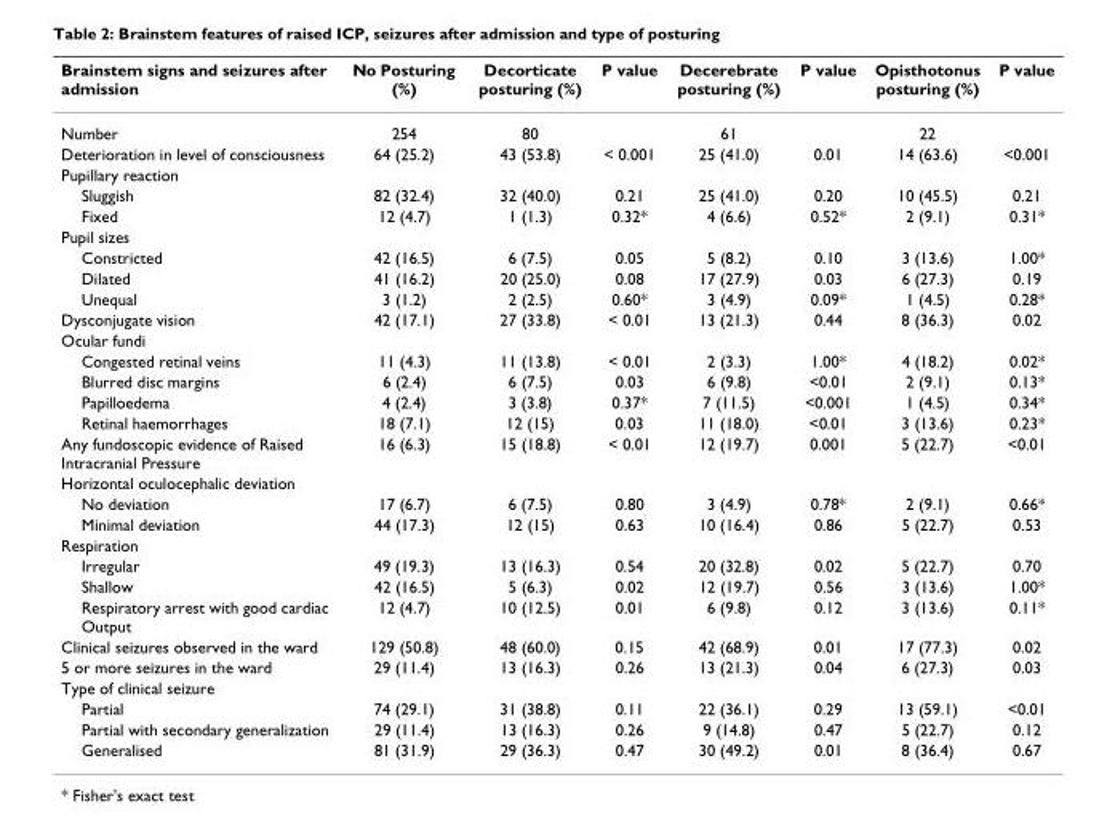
<table><thead><tr><td>Brainstem signs and seizures after admission</td><td>No Posturing (%)</td><td>Decorticate posturing (%)</td><td>P value</td><td>Decerebrate posturing (%)</td><td>P value</td><td>Opisthotonus posturing (%)</td><td>P value</td></tr></thead><tbody><tr><td>Number</td><td>254</td><td>80</td><td></td><td>61</td><td></td><td>22</td><td></td></tr><tr><td>Deterioration in level of consciousness</td><td>64 (25.2)</td><td>43 (53.8)</td><td>&lt; 0.001</td><td>25 (41.0)</td><td>0.01</td><td>14 (63.6)</td><td>&lt;0.001</td></tr><tr><td colspan="8">Pupillary reaction</td></tr><tr><td>Sluggish</td><td>82 (32.4)</td><td>32 (40.0)</td><td>0.21</td><td>25 (41.0)</td><td>0.20</td><td>10 (45.5)</td><td>0.21</td></tr><tr><td>Fixed</td><td>12 (4.7)</td><td>1 (1.3)</td><td>0.32*</td><td>4 (6.6)</td><td>0.52*</td><td>2 (9.1)</td><td>0.31*</td></tr><tr><td colspan="8">Pupil sizes</td></tr><tr><td>Constricted</td><td>42 (16.5)</td><td>6 (7.5)</td><td>0.05</td><td>5 (8.2)</td><td>0.10</td><td>3 (13.6)</td><td>1.00*</td></tr><tr><td>Dilated</td><td>41 (16.2)</td><td>20 (25.0)</td><td>0.08</td><td>17 (27.9)</td><td>0.03</td><td>6 (27.3)</td><td>0.19</td></tr><tr><td>Unequal</td><td>3 (1.2)</td><td>2 (2.5)</td><td>0.60*</td><td>3 (4.9)</td><td>0.09*</td><td>1 (4.5)</td><td>0.28*</td></tr><tr><td>Dysconjugate vision</td><td>42 (17.1)</td><td>27 (33.8)</td><td>&lt; 0.01</td><td>13 (21.3)</td><td>0.44</td><td>8 (36.3)</td><td>0.02</td></tr><tr><td colspan="8">Ocular fundi</td></tr><tr><td>Congested retinal veins</td><td>11 (4.3)</td><td>11 (13.8)</td><td>&lt; 0.01</td><td>2 (3.3)</td><td>1.00*</td><td>4 (18.2)</td><td>0.02*</td></tr><tr><td>Blurred disc margins</td><td>6 (2.4)</td><td>6 (7.5)</td><td>0.03</td><td>6 (9.8)</td><td>&lt;0.01</td><td>2 (9.1)</td><td>0.13*</td></tr><tr><td>Papilloedema</td><td>4 (2.4)</td><td>3 (3.8)</td><td>0.37*</td><td>7 (11.5)</td><td>&lt;0.001</td><td>1 (4.5)</td><td>0.34*</td></tr><tr><td>Retinal haemorrhages</td><td>18 (7.1)</td><td>12 (15)</td><td>0.03</td><td>11 (18.0)</td><td>&lt;0.01</td><td>3 (13.6)</td><td>0.23*</td></tr><tr><td>Any fundoscopic evidence of Raised Intracranial Pressure</td><td>16 (6.3)</td><td>15 (18.8)</td><td>&lt; 0.01</td><td>12 (19.7)</td><td>0.001</td><td>5 (22.7)</td><td>&lt;0.01</td></tr><tr><td colspan="8">Horizontal oculocephalic deviation</td></tr><tr><td>No deviation</td><td>17 (6.7)</td><td>6 (7.5)</td><td>0.80</td><td>3 (4.9)</td><td>0.78*</td><td>2 (9.1)</td><td>0.66*</td></tr><tr><td>Minimal deviation</td><td>44 (17.3)</td><td>12 (15)</td><td>0.63</td><td>10 (16.4)</td><td>0.86</td><td>5 (22.7)</td><td>0.53</td></tr><tr><td colspan="8">Respiration</td></tr><tr><td>Irregular</td><td>49 (19.3)</td><td>13 (16.3)</td><td>0.54</td><td>20 (32.8)</td><td>0.02</td><td>5 (22.7)</td><td>0.70</td></tr><tr><td>Shallow</td><td>42 (16.5)</td><td>5 (6.3)</td><td>0.02</td><td>12 (19.7)</td><td>0.56</td><td>3 (13.6)</td><td>1.00*</td></tr><tr><td>Respiratory arrest with good cardiac Output</td><td>12 (4.7)</td><td>10 (12.5)</td><td>0.01</td><td>6 (9.8)</td><td>0.12</td><td>3 (13.6)</td><td>0.11*</td></tr><tr><td>Clinical seizures observed in the ward</td><td>129 (50.8)</td><td>48 (60.0)</td><td>0.15</td><td>42 (68.9)</td><td>0.01</td><td>17 (77.3)</td><td>0.02</td></tr><tr><td>5 or more seizures in the ward</td><td>29 (11.4)</td><td>13 (16.3)</td><td>0.26</td><td>13 (21.3)</td><td>0.04</td><td>6 (27.3)</td><td>0.03</td></tr><tr><td colspan="8">Type of clinical seizure</td></tr><tr><td>Partial</td><td>74 (29.1)</td><td>31 (38.8)</td><td>0.11</td><td>22 (36.1)</td><td>0.29</td><td>13 (59.1)</td><td>&lt;0.01</td></tr><tr><td>Partial with secondary generalization</td><td>29 (11.4)</td><td>13 (16.3)</td><td>0.26</td><td>9 (14.8)</td><td>0.47</td><td>5 (22.7)</td><td>0.12</td></tr><tr><td>Generalised</td><td>81 (31.9)</td><td>29 (36.3)</td><td>0.47</td><td>30 (49.2)</td><td>0.01</td><td>8 (36.4)</td><td>0.67</td></tr></tbody></table>